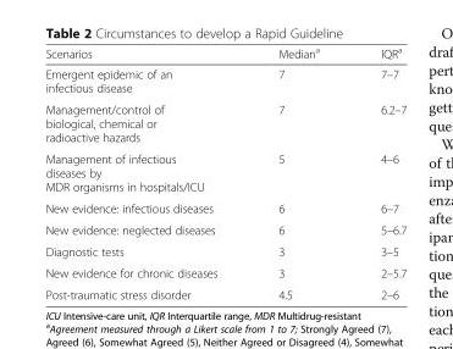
<table><thead><tr><td>Scenarios</td><td>Median<sup>a</sup></td><td>IQR<sup>a</sup></td></tr></thead><tbody><tr><td>Emergent epidemic of an infectious disease</td><td>7</td><td>7–7</td></tr><tr><td>Management/control of biological, chemical or radioactive hazards</td><td>7</td><td>6.2–7</td></tr><tr><td>Management of infectious diseases by MDR organisms in hospitals/ICU</td><td>5</td><td>4–6</td></tr><tr><td>New evidence: infectious diseases</td><td>6</td><td>6–7</td></tr><tr><td>New evidence: neglected diseases</td><td>6</td><td>5–6.7</td></tr><tr><td>Diagnostic tests</td><td>3</td><td>3–5</td></tr><tr><td>New evidence for chronic diseases</td><td>3</td><td>2–5.7</td></tr><tr><td>Post-traumatic stress disorder</td><td>4.5</td><td>2–6</td></tr></tbody></table>